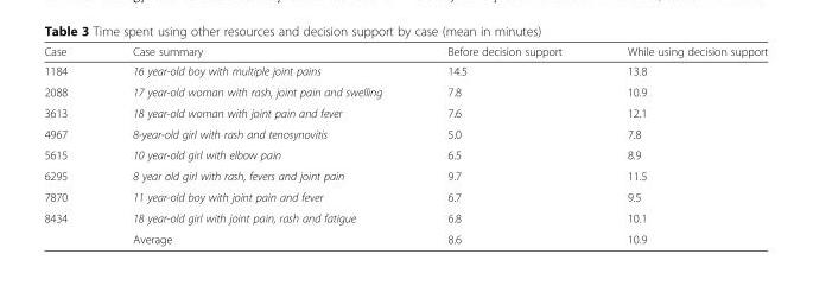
<table><thead><tr><td>Case</td><td>Case summary</td><td>Before decision support</td><td>While using decision support</td></tr></thead><tbody><tr><td>1184</td><td>16 year-old boy with multiple joint pains</td><td>14.5</td><td>13.8</td></tr><tr><td>2088</td><td>17 year-old woman with rash, joint pain and swelling</td><td>7.8</td><td>10.9</td></tr><tr><td>3613</td><td>18 year-old woman with joint pain and fever</td><td>7.6</td><td>12.1</td></tr><tr><td>4967</td><td>8-year-old girl with rash and tenosynovitis</td><td>5.0</td><td>7.8</td></tr><tr><td>5615</td><td>10 year-old girl with elbow pain</td><td>6.5</td><td>8.9</td></tr><tr><td>6295</td><td>8 year old girl with rash, fevers and joint pain</td><td>9.7</td><td>11.5</td></tr><tr><td>7870</td><td>11 year-old boy with joint pain and fever</td><td>6.7</td><td>9.5</td></tr><tr><td rowspan="2">8434</td><td>18 year-old girl with joint pain, rash and fatigue</td><td>6.8</td><td>10.1</td></tr><tr><td>Average</td><td>8.6</td><td>10.9</td></tr></tbody></table>